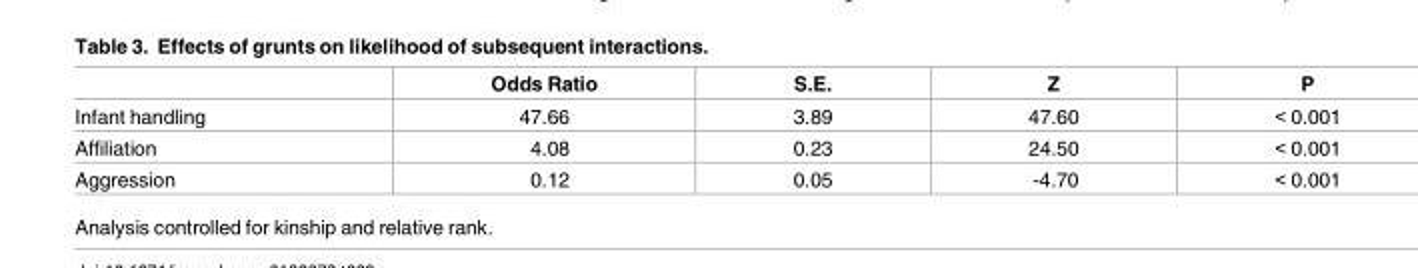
<table><thead><tr><td></td><td>Odds Ratio</td><td>S.E.</td><td>Z</td><td>P</td></tr></thead><tbody><tr><td>Infant handling</td><td>47.66</td><td>3.89</td><td>47.60</td><td>&lt; 0.001</td></tr><tr><td>Affiliation</td><td>4.08</td><td>0.23</td><td>24.50</td><td>&lt; 0.001</td></tr><tr><td>Aggression</td><td>0.12</td><td>0.05</td><td>-4.70</td><td>&lt; 0.001</td></tr></tbody></table>